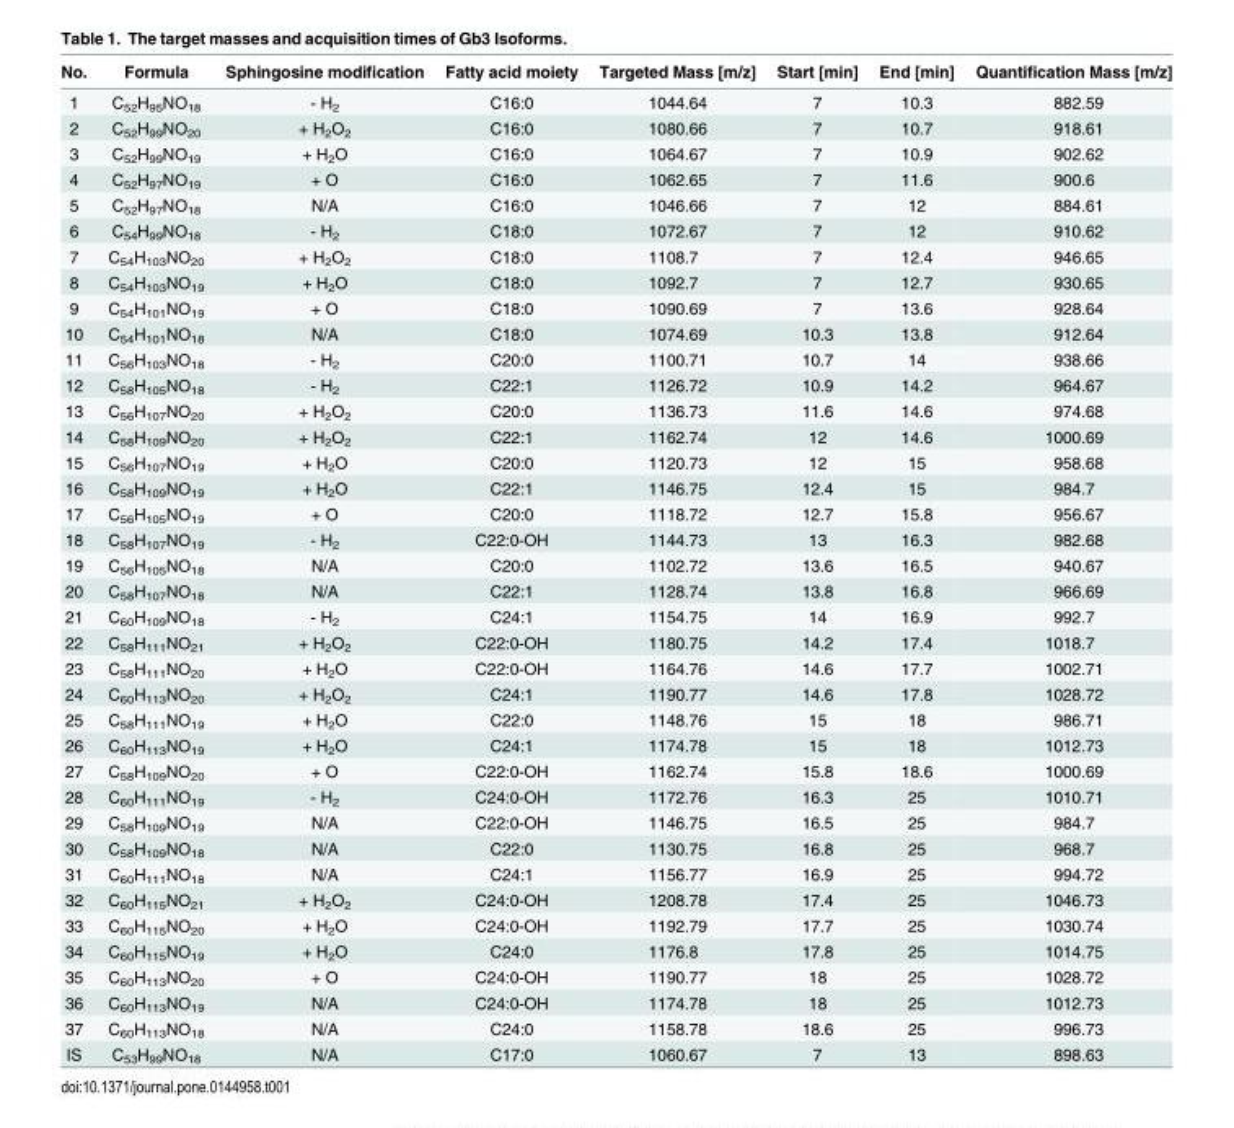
<table><thead><tr><td>No.</td><td>Formula</td><td>Sphingosine modification</td><td>Fatty acid moiety</td><td>Targeted Mass [m/z]</td><td>Start [min]</td><td>End [min]</td><td>Quantification Mass [m/z]</td></tr></thead><tbody><tr><td>1</td><td>C<sub>52</sub>H<sub>95</sub>NO<sub>18</sub></td><td>- H<sub>2</sub></td><td>C16:0</td><td>1044.64</td><td>7</td><td>10.3</td><td>882.59</td></tr><tr><td>2</td><td>C<sub>52</sub>H<sub>99</sub>NO<sub>20</sub></td><td>+ H<sub>2</sub>O<sub>2</sub></td><td>C16:0</td><td>1080.66</td><td>7</td><td>10.7</td><td>918.61</td></tr><tr><td>3</td><td>C<sub>52</sub>H<sub>99</sub>NO<sub>19</sub></td><td>+ H<sub>2</sub>O</td><td>C16:0</td><td>1064.67</td><td>7</td><td>10.9</td><td>902.62</td></tr><tr><td>4</td><td>C<sub>52</sub>H<sub>97</sub>NO<sub>19</sub></td><td>+ O</td><td>C16:0</td><td>1062.65</td><td>7</td><td>11.6</td><td>900.6</td></tr><tr><td>5</td><td>C<sub>52</sub>H<sub>97</sub>NO<sub>18</sub></td><td>N/A</td><td>C16:0</td><td>1046.66</td><td>7</td><td>12</td><td>884.61</td></tr><tr><td>6</td><td>C<sub>54</sub>H<sub>99</sub>NO<sub>18</sub></td><td>- H<sub>2</sub></td><td>C18:0</td><td>1072.67</td><td>7</td><td>12</td><td>910.62</td></tr><tr><td>7</td><td>C<sub>54</sub>H<sub>103</sub>NO<sub>20</sub></td><td>+ H<sub>2</sub>O<sub>2</sub></td><td>C18:0</td><td>1108.7</td><td>7</td><td>12.4</td><td>946.65</td></tr><tr><td>8</td><td>C<sub>54</sub>H<sub>103</sub>NO<sub>19</sub></td><td>+ H<sub>2</sub>O</td><td>C18:0</td><td>1092.7</td><td>7</td><td>12.7</td><td>930.65</td></tr><tr><td>9</td><td>C<sub>54</sub>H<sub>101</sub>NO<sub>19</sub></td><td>+ O</td><td>C18:0</td><td>1090.69</td><td>7</td><td>13.6</td><td>928.64</td></tr><tr><td>10</td><td>C<sub>54</sub>H<sub>101</sub>NO<sub>18</sub></td><td>N/A</td><td>C18:0</td><td>1074.69</td><td>10.3</td><td>13.8</td><td>912.64</td></tr><tr><td>11</td><td>C<sub>56</sub>H<sub>103</sub>NO<sub>18</sub></td><td>- H<sub>2</sub></td><td>C20:0</td><td>1100.71</td><td>10.7</td><td>14</td><td>938.66</td></tr><tr><td>12</td><td>C<sub>58</sub>H<sub>105</sub>NO<sub>18</sub></td><td>- H<sub>2</sub></td><td>C22:1</td><td>1126.72</td><td>10.9</td><td>14.2</td><td>964.67</td></tr><tr><td>13</td><td>C<sub>56</sub>H<sub>107</sub>NO<sub>20</sub></td><td>+ H<sub>2</sub>O<sub>2</sub></td><td>C20:0</td><td>1136.73</td><td>11.6</td><td>14.6</td><td>974.68</td></tr><tr><td>14</td><td>C<sub>58</sub>H<sub>109</sub>NO<sub>20</sub></td><td>+ H<sub>2</sub>O<sub>2</sub></td><td>C22:1</td><td>1162.74</td><td>12</td><td>14.6</td><td>1000.69</td></tr><tr><td>15</td><td>C<sub>56</sub>H<sub>107</sub>NO<sub>19</sub></td><td>+ H<sub>2</sub>O</td><td>C20:0</td><td>1120.73</td><td>12</td><td>15</td><td>958.68</td></tr><tr><td>16</td><td>C<sub>58</sub>H<sub>109</sub>NO<sub>19</sub></td><td>+ H<sub>2</sub>O</td><td>C22:1</td><td>1146.75</td><td>12.4</td><td>15</td><td>984.7</td></tr><tr><td>17</td><td>C<sub>56</sub>H<sub>105</sub>NO<sub>19</sub></td><td>+ O</td><td>C20:0</td><td>1118.72</td><td>12.7</td><td>15.8</td><td>956.67</td></tr><tr><td>18</td><td>C<sub>58</sub>H<sub>107</sub>NO<sub>19</sub></td><td>- H<sub>2</sub></td><td>C22:0-OH</td><td>1144.73</td><td>13</td><td>16.3</td><td>982.68</td></tr><tr><td>19</td><td>C<sub>56</sub>H<sub>105</sub>NO<sub>18</sub></td><td>N/A</td><td>C20:0</td><td>1102.72</td><td>13.6</td><td>16.5</td><td>940.67</td></tr><tr><td>20</td><td>C<sub>58</sub>H<sub>107</sub>NO<sub>18</sub></td><td>N/A</td><td>C22:1</td><td>1128.74</td><td>13.8</td><td>16.8</td><td>966.69</td></tr><tr><td>21</td><td>C<sub>60</sub>H<sub>109</sub>NO<sub>18</sub></td><td>- H<sub>2</sub></td><td>C24:1</td><td>1154.75</td><td>14</td><td>16.9</td><td>992.7</td></tr><tr><td>22</td><td>C<sub>58</sub>H<sub>111</sub>NO<sub>21</sub></td><td>+ H<sub>2</sub>O<sub>2</sub></td><td>C22:0-OH</td><td>1180.75</td><td>14.2</td><td>17.4</td><td>1018.7</td></tr><tr><td>23</td><td>C<sub>58</sub>H<sub>111</sub>NO<sub>20</sub></td><td>+ H<sub>2</sub>O</td><td>C22:0-OH</td><td>1164.76</td><td>14.6</td><td>17.7</td><td>1002.71</td></tr><tr><td>24</td><td>C<sub>60</sub>H<sub>113</sub>NO<sub>20</sub></td><td>+ H<sub>2</sub>O<sub>2</sub></td><td>C24:1</td><td>1190.77</td><td>14.6</td><td>17.8</td><td>1028.72</td></tr><tr><td>25</td><td>C<sub>58</sub>H<sub>111</sub>NO<sub>19</sub></td><td>+ H<sub>2</sub>O</td><td>C22:0</td><td>1148.76</td><td>15</td><td>18</td><td>986.71</td></tr><tr><td>26</td><td>C<sub>60</sub>H<sub>113</sub>NO<sub>19</sub></td><td>+ H<sub>2</sub>O</td><td>C24:1</td><td>1174.78</td><td>15</td><td>18</td><td>1012.73</td></tr><tr><td>27</td><td>C<sub>58</sub>H<sub>109</sub>NO<sub>20</sub></td><td>+ O</td><td>C22:0-OH</td><td>1162.74</td><td>15.8</td><td>18.6</td><td>1000.69</td></tr><tr><td>28</td><td>C<sub>60</sub>H<sub>111</sub>NO<sub>19</sub></td><td>- H<sub>2</sub></td><td>C24:0-OH</td><td>1172.76</td><td>16.3</td><td>25</td><td>1010.71</td></tr><tr><td>29</td><td>C<sub>58</sub>H<sub>109</sub>NO<sub>19</sub></td><td>N/A</td><td>C22:0-OH</td><td>1146.75</td><td>16.5</td><td>25</td><td>984.7</td></tr><tr><td>30</td><td>C<sub>58</sub>H<sub>109</sub>NO<sub>18</sub></td><td>N/A</td><td>C22:0</td><td>1130.75</td><td>16.8</td><td>25</td><td>968.7</td></tr><tr><td>31</td><td>C<sub>60</sub>H<sub>111</sub>NO<sub>18</sub></td><td>N/A</td><td>C24:1</td><td>1156.77</td><td>16.9</td><td>25</td><td>994.72</td></tr><tr><td>32</td><td>C<sub>60</sub>H<sub>115</sub>NO<sub>21</sub></td><td>+ H<sub>2</sub>O<sub>2</sub></td><td>C24:0-OH</td><td>1208.78</td><td>17.4</td><td>25</td><td>1046.73</td></tr><tr><td>33</td><td>C<sub>60</sub>H<sub>115</sub>NO<sub>20</sub></td><td>+ H<sub>2</sub>O</td><td>C24:0-OH</td><td>1192.79</td><td>17.7</td><td>25</td><td>1030.74</td></tr><tr><td>34</td><td>C<sub>60</sub>H<sub>115</sub>NO<sub>19</sub></td><td>+ H<sub>2</sub>O</td><td>C24:0</td><td>1176.8</td><td>17.8</td><td>25</td><td>1014.75</td></tr><tr><td>35</td><td>C<sub>60</sub>H<sub>113</sub>NO<sub>20</sub></td><td>+ O</td><td>C24:0-OH</td><td>1190.77</td><td>18</td><td>25</td><td>1028.72</td></tr><tr><td>36</td><td>C<sub>60</sub>H<sub>113</sub>NO<sub>19</sub></td><td>N/A</td><td>C24:0-OH</td><td>1174.78</td><td>18</td><td>25</td><td>1012.73</td></tr><tr><td>37</td><td>C<sub>60</sub>H<sub>113</sub>NO<sub>18</sub></td><td>N/A</td><td>C24:0</td><td>1158.78</td><td>18.6</td><td>25</td><td>996.73</td></tr><tr><td>IS</td><td>C<sub>53</sub>H<sub>99</sub>NO<sub>18</sub></td><td>N/A</td><td>C17:0</td><td>1060.67</td><td>7</td><td>13</td><td>898.63</td></tr></tbody></table>